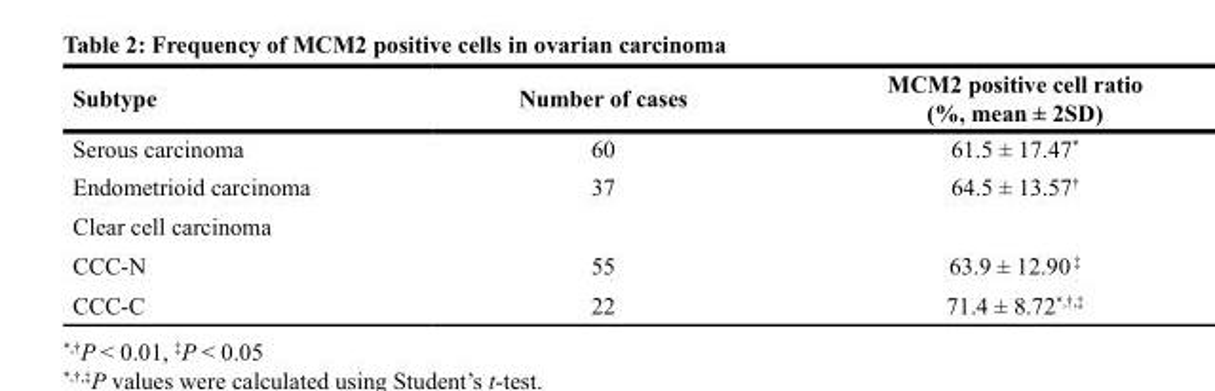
<table><thead><tr><td>Subtype</td><td>Number of cases</td><td>MCM2 positive cell ratio (%, mean ± 2SD)</td></tr></thead><tbody><tr><td>Serous carcinoma</td><td>60</td><td>61.5 ± 17.47*</td></tr><tr><td>Endometrioid carcinoma</td><td>37</td><td>64.5 ± 13.57<sup>†</sup></td></tr><tr><td colspan="3">Clear cell carcinoma</td></tr><tr><td>CCC-N</td><td>55</td><td>63.9 ± 12.90 <sup>‡</sup></td></tr><tr><td>CCC-C</td><td>22</td><td>71.4 ± 8.72<sup>*,†,‡</sup></td></tr></tbody></table>